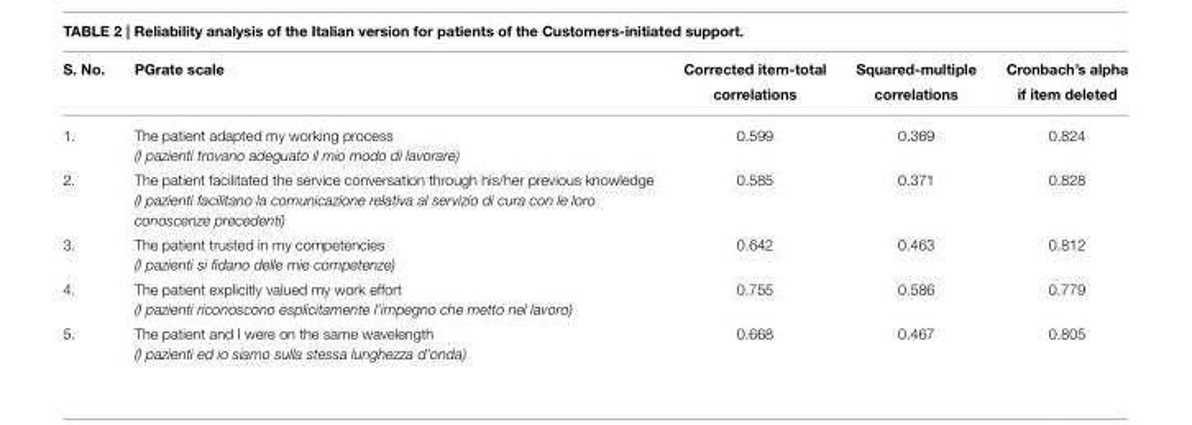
<table><thead><tr><td>S. No.</td><td>PGrate scale</td><td>Corrected item-total correlations</td><td>Squared-multiple correlations</td><td>Cronbach’s alpha if item deleted</td></tr></thead><tbody><tr><td>1.</td><td>The patient adapted my working process (I pazienti trovano adeguato il mio modo di lavorare)</td><td>0.599</td><td>0.369</td><td>0.824</td></tr><tr><td>2.</td><td>The patient facilitated the service conversation through his/her previous knowledge (I pazienti facilitano la comunicazione relativa al servizio di cura con le loro conoscenze precedenti)</td><td>0.585</td><td>0.371</td><td>0.828</td></tr><tr><td>3.</td><td>The patient trusted in my competencies (I pazienti si fidano delle mie competenze)</td><td>0.642</td><td>0.463</td><td>0.812</td></tr><tr><td>4.</td><td>The patient explicitly valued my work effort (I pazienti riconoscono esplicitamente l’impegno che metto nel lavoro)</td><td>0.755</td><td>0.586</td><td>0.779</td></tr><tr><td>5.</td><td>The patient and I were on the same wavelength (I pazienti ed io siamo sulla stessa lunghezza d’onda)</td><td>0.668</td><td>0.467</td><td>0.805</td></tr></tbody></table>